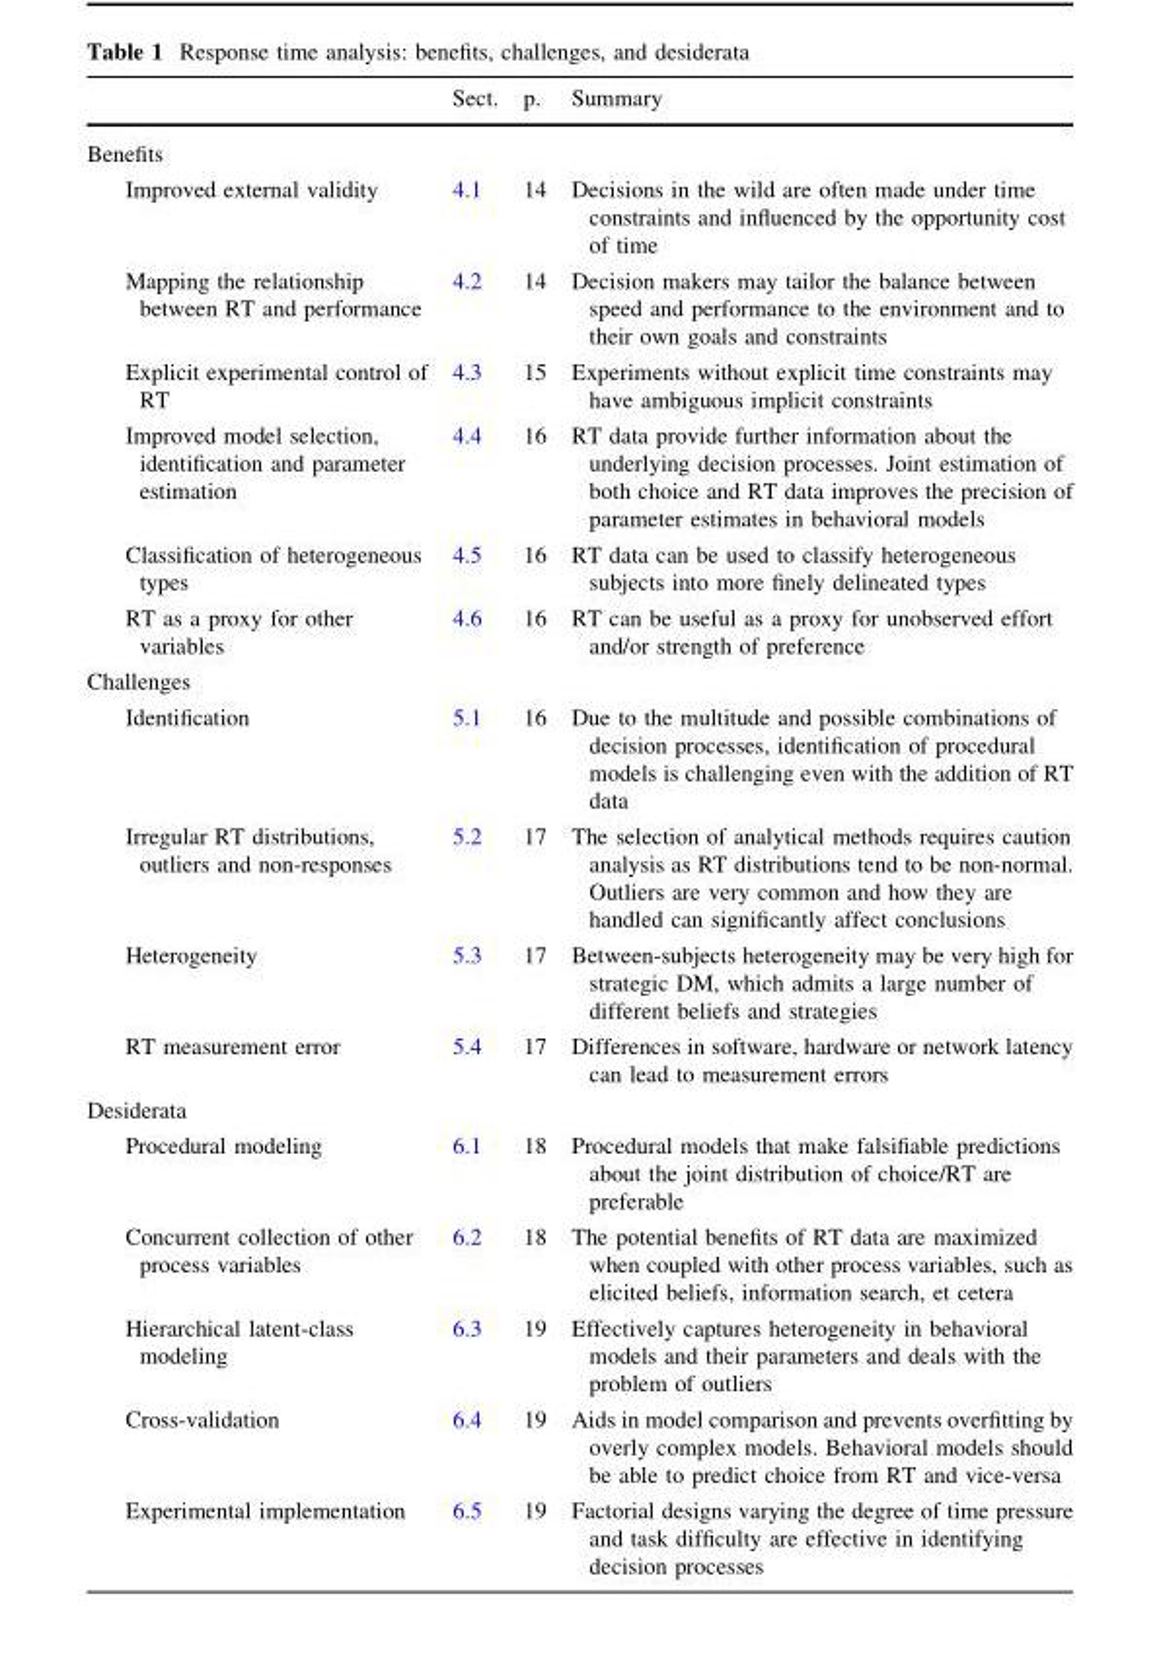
<table><thead><tr><td></td><td>Sect.</td><td>p.</td><td>Summary</td></tr></thead><tbody><tr><td colspan="4">Benefits</td></tr><tr><td>Improved external validity</td><td>4.1</td><td>14</td><td>Decisions in the wild are often made under time constraints and influenced by the opportunity cost of time</td></tr><tr><td>Mapping the relationship between RT and performance</td><td>4.2</td><td>14</td><td>Decision makers may tailor the balance between speed and performance to the environment and to their own goals and constraints</td></tr><tr><td>Explicit experimental control of RT</td><td>4.3</td><td>15</td><td>Experiments without explicit time constraints may have ambiguous implicit constraints</td></tr><tr><td>Improved model selection, identification and parameter estimation</td><td>4.4</td><td>16</td><td>RT data provide further information about the underlying decision processes. Joint estimation of both choice and RT data improves the precision of parameter estimates in behavioral models</td></tr><tr><td>Classification of heterogeneous types</td><td>4.5</td><td>16</td><td>RT data can be used to classify heterogeneous subjects into more finely delineated types</td></tr><tr><td>RT as a proxy for other variables</td><td>4.6</td><td>16</td><td>RT can be useful as a proxy for unobserved effort and/or strength of preference</td></tr><tr><td colspan="4">Challenges</td></tr><tr><td>Identification</td><td>5.1</td><td>16</td><td>Due to the multitude and possible combinations of decision processes, identification of procedural models is challenging even with the addition of RT data</td></tr><tr><td>Irregular RT distributions, outliers and non-responses</td><td>5.2</td><td>17</td><td>The selection of analytical methods requires caution analysis as RT distributions tend to be non-normal. Outliers are very common and how they are handled can significantly affect conclusions</td></tr><tr><td>Heterogeneity</td><td>5.3</td><td>17</td><td>Between-subjects heterogeneity may be very high for strategic DM, which admits a large number of different beliefs and strategies</td></tr><tr><td>RT measurement error</td><td>5.4</td><td>17</td><td>Differences in software, hardware or network latency can lead to measurement errors</td></tr><tr><td colspan="4">Desiderata</td></tr><tr><td>Procedural modeling</td><td>6.1</td><td>18</td><td>Procedural models that make falsifiable predictions about the joint distribution of choice/RT are preferable</td></tr><tr><td>Concurrent collection of other process variables</td><td>6.2</td><td>18</td><td>The potential benefits of RT data are maximized when coupled with other process variables, such as elicited beliefs, information search, et cetera</td></tr><tr><td>Hierarchical latent-class modeling</td><td>6.3</td><td>19</td><td>Effectively captures heterogeneity in behavioral models and their parameters and deals with the problem of outliers</td></tr><tr><td>Cross-validation</td><td>6.4</td><td>19</td><td>Aids in model comparison and prevents overfitting by overly complex models. Behavioral models should be able to predict choice from RT and vice-versa</td></tr><tr><td>Experimental implementation</td><td>6.5</td><td>19</td><td>Factorial designs varying the degree of time pressure and task difficulty are effective in identifying decision processes</td></tr></tbody></table>